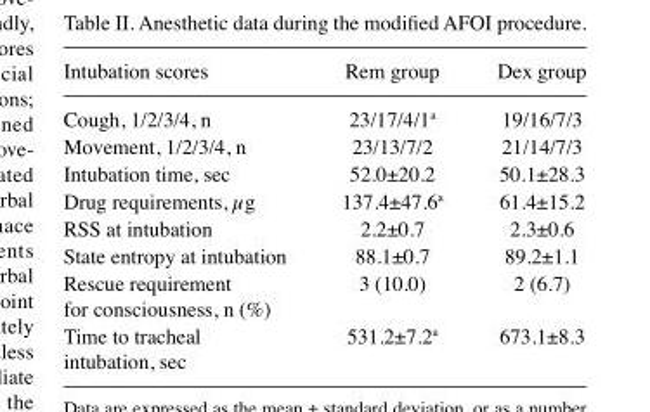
<table><thead><tr><td>Intubation scores</td><td>Rem group</td><td>Dex group</td></tr></thead><tbody><tr><td>Cough, 1/2/3/4, n</td><td>23/17/4/1<sup>a</sup></td><td>19/16/7/3</td></tr><tr><td>Movement, 1/2/3/4, n</td><td>23/13/7/2</td><td>21/14/7/3</td></tr><tr><td>Intubation time, sec</td><td>52.0±20.2</td><td>50.1±28.3</td></tr><tr><td>Drug requirements, µg</td><td>137.4±47.6<sup>a</sup></td><td>61.4±15.2</td></tr><tr><td>RSS at intubation</td><td>2.2±0.7</td><td>2.3±0.6</td></tr><tr><td>State entropy at intubation</td><td>88.1±0.7</td><td>89.2±1.1</td></tr><tr><td>Rescue requirement for consciousness, n (%)</td><td>3 (10.0)</td><td>2 (6.7)</td></tr><tr><td>Time to tracheal</td><td>531.2±7.2<sup>a</sup></td><td>673.1±8.3</td></tr></tbody></table>